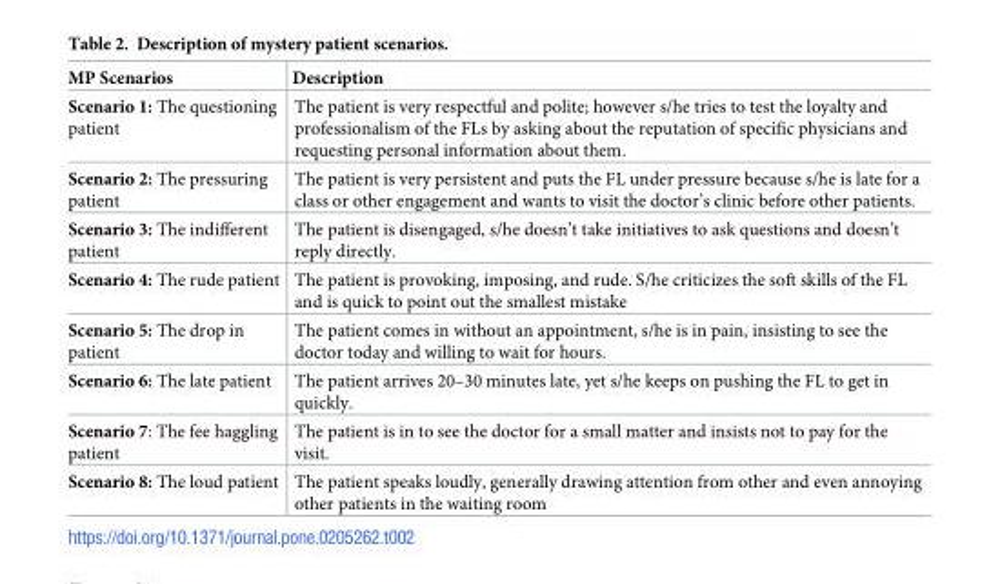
<table><thead><tr><td>MP Scenarios</td><td>Description</td></tr></thead><tbody><tr><td>Scenario 1: The questioning patient</td><td>The patient is very respectful and polite; however s/he tries to test the loyalty and professionalism of the FLs by asking about the reputation of specific physicians and requesting personal information about them.</td></tr><tr><td>Scenario 2: The pressuring patient</td><td>The patient is very persistent and puts the FL under pressure because s/he is late for a class or other engagement and wants to visit the doctor’s clinic before other patients.</td></tr><tr><td>Scenario 3: The indifferent patient</td><td>The patient is disengaged, s/he doesn’t take initiatives to ask questions and doesn’t reply directly.</td></tr><tr><td>Scenario 4: The rude patient</td><td>The patient is provoking, imposing, and rude. S/he criticizes the soft skills of the FL and is quick to point out the smallest mistake</td></tr><tr><td>Scenario 5: The drop in patient</td><td>The patient comes in without an appointment, s/he is in pain, insisting to see the doctor today and willing to wait for hours.</td></tr><tr><td>Scenario 6: The late patient</td><td>The patient arrives 20–30 minutes late, yet s/he keeps on pushing the FL to get in quickly.</td></tr><tr><td>Scenario 7: The fee haggling patient</td><td>The patient is in to see the doctor for a small matter and insists not to pay for the visit.</td></tr><tr><td>Scenario 8: The loud patient</td><td>The patient speaks loudly, generally drawing attention from other and even annoying other patients in the waiting room</td></tr></tbody></table>